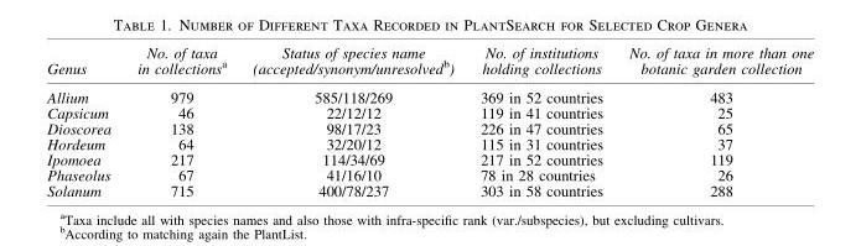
<table><thead><tr><td>Genus</td><td>No. of taxa in collections<sup>a</sup></td><td>Status of species name (accepted/synonym/unresolved<sup>b</sup>)</td><td>No. of institutions holding collections</td><td>No. of taxa in more than one botanic garden collection</td></tr></thead><tbody><tr><td>Allium</td><td>979</td><td>585/118/269</td><td>369 in 52 countries</td><td>483</td></tr><tr><td>Capsicum</td><td>46</td><td>22/12/12</td><td>119 in 41 countries</td><td>25</td></tr><tr><td>Dioscorea</td><td>138</td><td>98/17/23</td><td>226 in 47 countries</td><td>65</td></tr><tr><td>Hordeum</td><td>64</td><td>32/20/12</td><td>115 in 31 countries</td><td>37</td></tr><tr><td>Ipomoea</td><td>217</td><td>114/34/69</td><td>217 in 52 countries</td><td>119</td></tr><tr><td>Phaseolus</td><td>67</td><td>41/16/10</td><td>78 in 28 countries</td><td>26</td></tr><tr><td>Solanum</td><td>715</td><td>400/78/237</td><td>303 in 58 countries</td><td>288</td></tr></tbody></table>